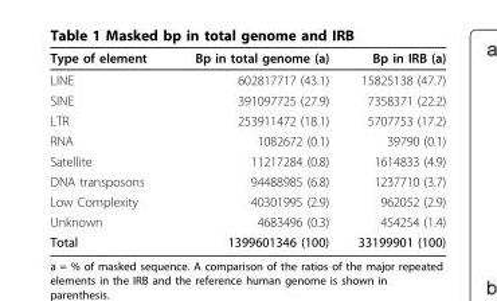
<table><thead><tr><td>Type of element</td><td>Bp in total genome (a)</td><td>Bp in IRB (a)</td></tr></thead><tbody><tr><td>LINE</td><td>602817717 (43.1)</td><td>15825138 (47.7)</td></tr><tr><td>SINE</td><td>391097725 (27.9)</td><td>7358371 (22.2)</td></tr><tr><td>LTR</td><td>253911472 (18.1)</td><td>5707753 (17.2)</td></tr><tr><td>RNA</td><td>1082672 (0.1)</td><td>39790 (0.1)</td></tr><tr><td>Satellite</td><td>11217284 (0.8)</td><td>1614833 (4.9)</td></tr><tr><td>DNA transposons</td><td>94488985 (6.8)</td><td>1237710 (3.7)</td></tr><tr><td>Low Complexity</td><td>40301995 (2.9)</td><td>962052 (2.9)</td></tr><tr><td>Unknown</td><td>4683496 (0.3)</td><td>454254 (1.4)</td></tr><tr><td>Total</td><td>1399601346 (100)</td><td>33199901 (100)</td></tr></tbody></table>